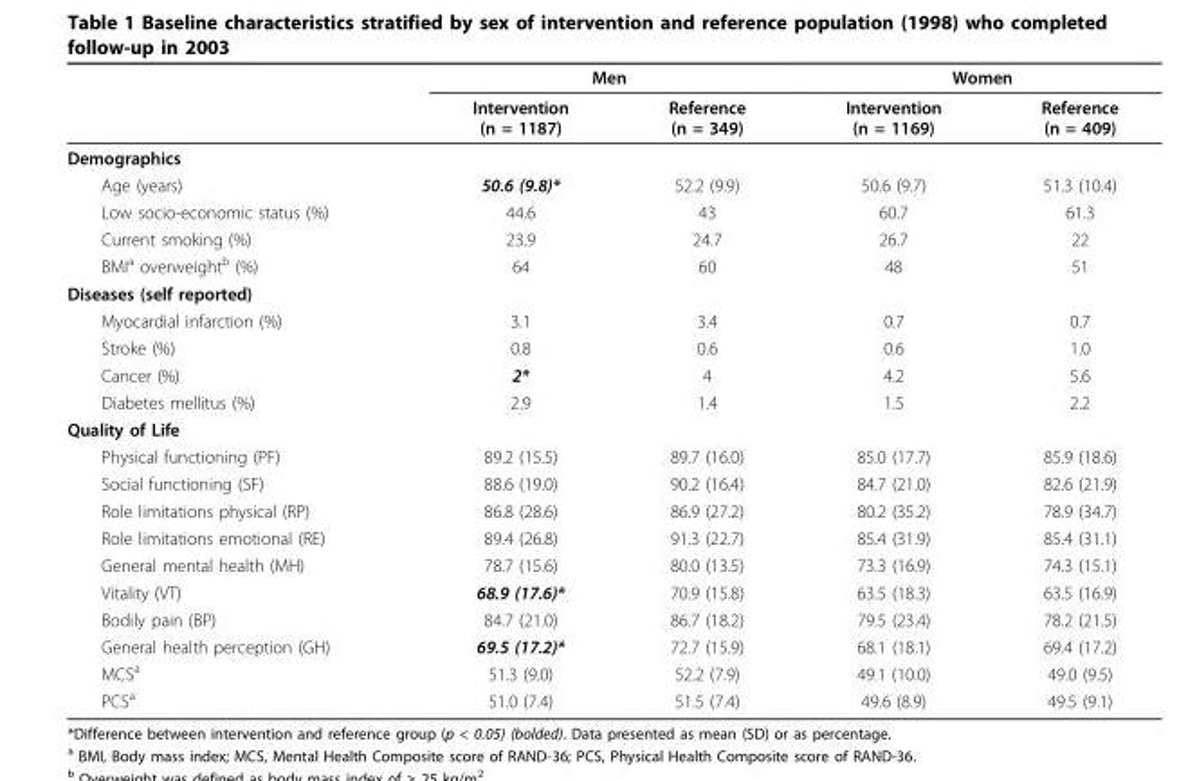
<table><thead><tr><td rowspan="2"></td><td colspan="2">Men</td><td colspan="2">Women</td></tr><tr><td>Intervention (n = 1187)</td><td>Reference (n = 349)</td><td>Intervention (n = 1169)</td><td>Reference (n = 409)</td></tr></thead><tbody><tr><td colspan="5">Demographics</td></tr><tr><td>Age (years)</td><td>50.6 (9.8)*</td><td>52.2 (9.9)</td><td>50.6 (9.7)</td><td>51.3 (10.4)</td></tr><tr><td>Low socio-economic status (%)</td><td>44.6</td><td>43</td><td>60.7</td><td>61.3</td></tr><tr><td>Current smoking (%)</td><td>23.9</td><td>24.7</td><td>26.7</td><td>22</td></tr><tr><td>BMI<sup>a</sup> overweight<sup>b</sup> (%)</td><td>64</td><td>60</td><td>48</td><td>51</td></tr><tr><td colspan="5">Diseases (self reported)</td></tr><tr><td>Myocardial infarction (%)</td><td>3.1</td><td>3.4</td><td>0.7</td><td>0.7</td></tr><tr><td>Stroke (%)</td><td>0.8</td><td>0.6</td><td>0.6</td><td>1.0</td></tr><tr><td>Cancer (%)</td><td>2*</td><td>4</td><td>4.2</td><td>5.6</td></tr><tr><td>Diabetes mellitus (%)</td><td>2.9</td><td>1.4</td><td>1.5</td><td>2.2</td></tr><tr><td colspan="5">Quality of Life</td></tr><tr><td>Physical functioning (PF)</td><td>89.2 (15.5)</td><td>89.7 (16.0)</td><td>85.0 (17.7)</td><td>85.9 (18.6)</td></tr><tr><td>Social functioning (SF)</td><td>88.6 (19.0)</td><td>90.2 (16.4)</td><td>84.7 (21.0)</td><td>82.6 (21.9)</td></tr><tr><td>Role limitations physical (RP)</td><td>86.8 (28.6)</td><td>86.9 (27.2)</td><td>80.2 (35.2)</td><td>78.9 (34.7)</td></tr><tr><td>Role limitations emotional (RE)</td><td>89.4 (26.8)</td><td>91.3 (22.7)</td><td>85.4 (31.9)</td><td>85.4 (31.1)</td></tr><tr><td>General mental health (MH)</td><td>78.7 (15.6)</td><td>80.0 (13.5)</td><td>73.3 (16.9)</td><td>74.3 (15.1)</td></tr><tr><td>Vitality (VT)</td><td>68.9 (17.6)*</td><td>70.9 (15.8)</td><td>63.5 (18.3)</td><td>63.5 (16.9)</td></tr><tr><td>Bodily pain (BP)</td><td>84.7 (21.0)</td><td>86.7 (18.2)</td><td>79.5 (23.4)</td><td>78.2 (21.5)</td></tr><tr><td>General health perception (GH)</td><td>69.5 (17.2)*</td><td>72.7 (15.9)</td><td>68.1 (18.1)</td><td>69.4 (17.2)</td></tr><tr><td>MCS<sup>a</sup></td><td>51.3 (9.0)</td><td>52.2 (7.9)</td><td>49.1 (10.0)</td><td>49.0 (9.5)</td></tr><tr><td>PCS<sup>a</sup></td><td>51.0 (7.4)</td><td>51.5 (7.4)</td><td>49.6 (8.9)</td><td>49.5 (9.1)</td></tr></tbody></table>